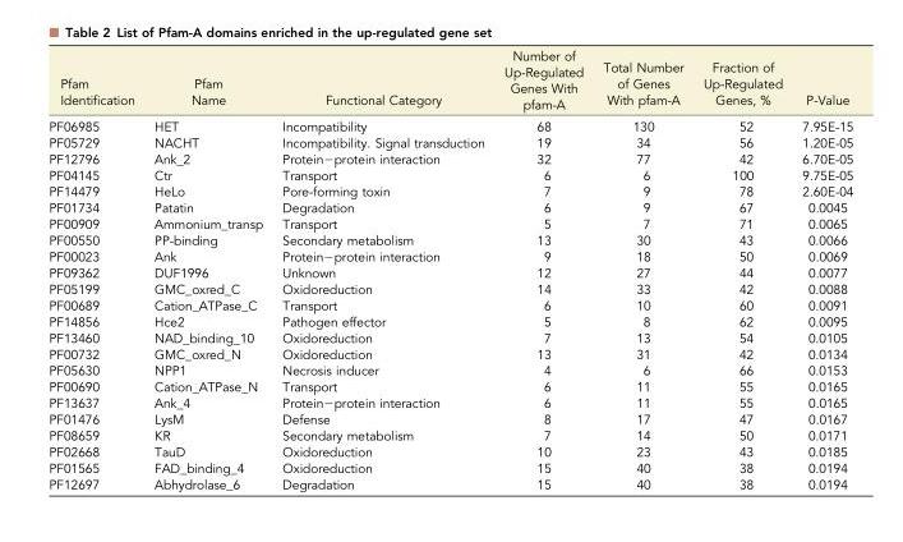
<table><thead><tr><td>Pfam Identification</td><td>Pfam Name</td><td>Functional Category</td><td>Number of Up-Regulated Genes With pfam-A</td><td>Total Number of Genes With pfam-A</td><td>Fraction of Up-Regulated Genes, %</td><td>P-Value</td></tr></thead><tbody><tr><td>PF06985</td><td>HET</td><td>Incompatibility</td><td>68</td><td>130</td><td>52</td><td>7.95E-15</td></tr><tr><td>PF05729</td><td>NACHT</td><td>Incompatibility. Signal transduction</td><td>19</td><td>34</td><td>56</td><td>1.20E-05</td></tr><tr><td>PF12796</td><td>Ank_2</td><td>Protein−protein interaction</td><td>32</td><td>77</td><td>42</td><td>6.70E-05</td></tr><tr><td>PF04145</td><td>Ctr</td><td>Transport</td><td>6</td><td>6</td><td>100</td><td>9.75E-05</td></tr><tr><td>PF14479</td><td>HeLo</td><td>Pore-forming toxin</td><td>7</td><td>9</td><td>78</td><td>2.60E-04</td></tr><tr><td>PF01734</td><td>Patatin</td><td>Degradation</td><td>6</td><td>9</td><td>67</td><td>0.0045</td></tr><tr><td>PF00909</td><td>Ammonium_transp</td><td>Transport</td><td>5</td><td>7</td><td>71</td><td>0.0065</td></tr><tr><td>PF00550</td><td>PP-binding</td><td>Secondary metabolism</td><td>13</td><td>30</td><td>43</td><td>0.0066</td></tr><tr><td>PF00023</td><td>Ank</td><td>Protein−protein interaction</td><td>9</td><td>18</td><td>50</td><td>0.0069</td></tr><tr><td>PF09362</td><td>DUF1996</td><td>Unknown</td><td>12</td><td>27</td><td>44</td><td>0.0077</td></tr><tr><td>PF05199</td><td>GMC_oxred_C</td><td>Oxidoreduction</td><td>14</td><td>33</td><td>42</td><td>0.0088</td></tr><tr><td>PF00689</td><td>Cation_ATPase_C</td><td>Transport</td><td>6</td><td>10</td><td>60</td><td>0.0091</td></tr><tr><td>PF14856</td><td>Hce2</td><td>Pathogen effector</td><td>5</td><td>8</td><td>62</td><td>0.0095</td></tr><tr><td>PF13460</td><td>NAD_binding_10</td><td>Oxidoreduction</td><td>7</td><td>13</td><td>54</td><td>0.0105</td></tr><tr><td>PF00732</td><td>GMC_oxred_N</td><td>Oxidoreduction</td><td>13</td><td>31</td><td>42</td><td>0.0134</td></tr><tr><td>PF05630</td><td>NPP1</td><td>Necrosis inducer</td><td>4</td><td>6</td><td>66</td><td>0.0153</td></tr><tr><td>PF00690</td><td>Cation_ATPase_N</td><td>Transport</td><td>6</td><td>11</td><td>55</td><td>0.0165</td></tr><tr><td>PF13637</td><td>Ank_4</td><td>Protein−protein interaction</td><td>6</td><td>11</td><td>55</td><td>0.0165</td></tr><tr><td>PF01476</td><td>LysM</td><td>Defense</td><td>8</td><td>17</td><td>47</td><td>0.0167</td></tr><tr><td>PF08659</td><td>KR</td><td>Secondary metabolism</td><td>7</td><td>14</td><td>50</td><td>0.0171</td></tr><tr><td>PF02668</td><td>TauD</td><td>Oxidoreduction</td><td>10</td><td>23</td><td>43</td><td>0.0185</td></tr><tr><td>PF01565</td><td>FAD_binding_4</td><td>Oxidoreduction</td><td>15</td><td>40</td><td>38</td><td>0.0194</td></tr><tr><td>PF12697</td><td>Abhydrolase_6</td><td>Degradation</td><td>15</td><td>40</td><td>38</td><td>0.0194</td></tr></tbody></table>